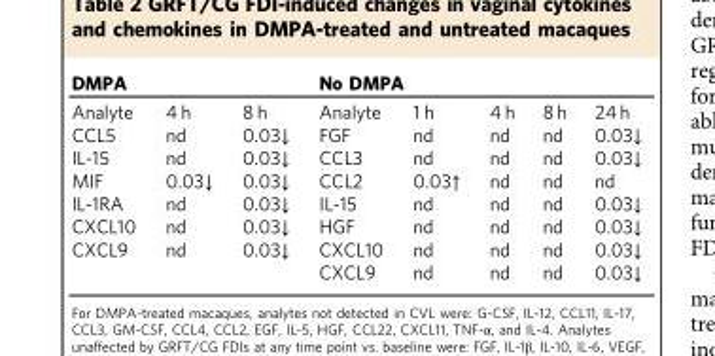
<table><thead><tr><td colspan="3">DMPA</td><td colspan="5">No DMPA</td></tr><tr><td>Analyte</td><td>4 h</td><td>8 h</td><td>Analyte</td><td>1 h</td><td>4 h</td><td>8 h</td><td>24 h</td></tr></thead><tbody><tr><td>CCL5</td><td>nd</td><td>0.03↓</td><td>FGF</td><td>nd</td><td>nd</td><td>nd</td><td>0.03↓</td></tr><tr><td>IL-15</td><td>nd</td><td>0.03↓</td><td>CCL3</td><td>nd</td><td>nd</td><td>nd</td><td>0.03↓</td></tr><tr><td>MIF</td><td>0.03↓</td><td>0.03↓</td><td>CCL2</td><td>0.03↑</td><td>nd</td><td>nd</td><td>nd</td></tr><tr><td>IL-1RA</td><td>nd</td><td>0.03↓</td><td>IL-15</td><td>nd</td><td>nd</td><td>nd</td><td>0.03↓</td></tr><tr><td>CXCL10</td><td>nd</td><td>0.03↓</td><td>HGF</td><td>nd</td><td>nd</td><td>nd</td><td>0.03↓</td></tr><tr><td rowspan="2">CXCL9</td><td>nd</td><td>0.03↓</td><td>CXCL10</td><td>nd</td><td>nd</td><td>nd</td><td>0.03↓</td></tr><tr><td></td><td></td><td>CXCL9</td><td>nd</td><td>nd</td><td>nd</td><td>0.03↓</td></tr></tbody></table>